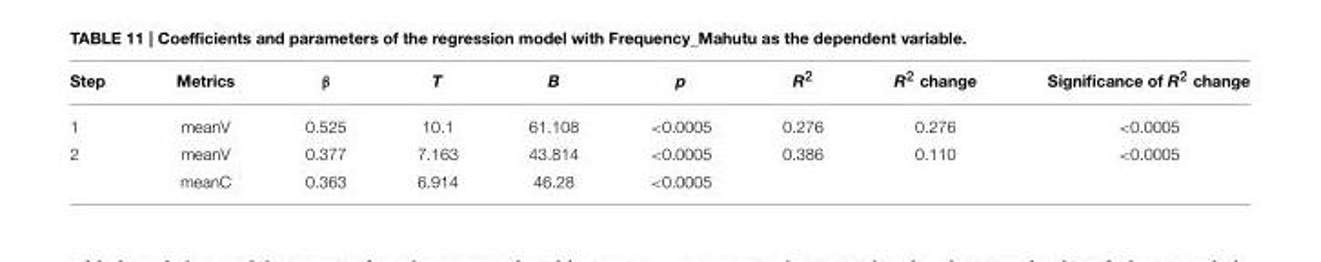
<table><thead><tr><td>Step</td><td>Metrics</td><td>β</td><td>T</td><td>B</td><td>p</td><td>R<sup>2</sup></td><td>R<sup>2</sup> change</td><td>Significance of R<sup>2</sup> change</td></tr></thead><tbody><tr><td>1</td><td>meanV</td><td>0.525</td><td>10.1</td><td>61.108</td><td>&lt;0.0005</td><td>0.276</td><td>0.276</td><td>&lt;0.0005</td></tr><tr><td rowspan="2">2</td><td>meanV</td><td>0.377</td><td>7.163</td><td>43.814</td><td>&lt;0.0005</td><td>0.386</td><td>0.110</td><td>&lt;0.0005</td></tr><tr><td>meanC</td><td>0.363</td><td>6.914</td><td>46.28</td><td>&lt;0.0005</td><td></td><td></td><td></td></tr></tbody></table>